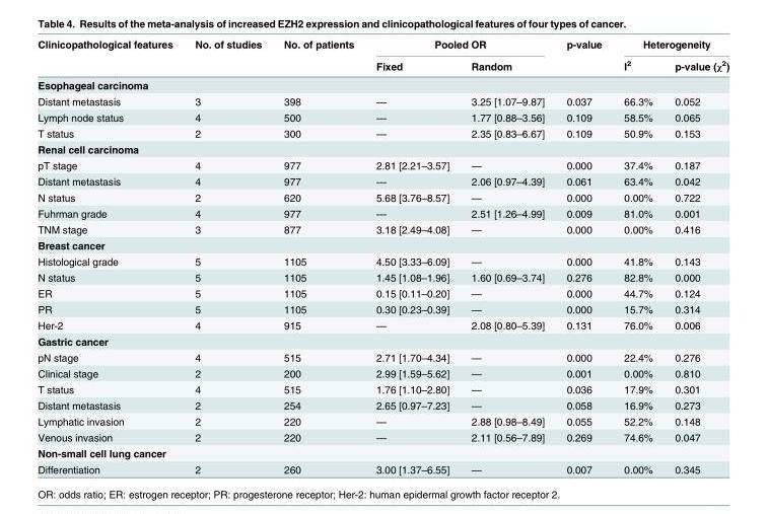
<table><thead><tr><td rowspan="2">Clinicopathological features</td><td rowspan="2">No. of studies</td><td rowspan="2">No. of patients</td><td colspan="2">Pooled OR</td><td rowspan="2">p-value</td><td colspan="2">Heterogeneity</td></tr><tr><td>Fixed</td><td>Random</td><td>I<sup>2</sup></td><td>p-value (χ<sup>2</sup>)</td></tr></thead><tbody><tr><td colspan="8">Esophageal carcinoma</td></tr><tr><td>Distant metastasis</td><td>3</td><td>398</td><td>—</td><td>3.25 [1.07–9.87]</td><td>0.037</td><td>66.3%</td><td>0.052</td></tr><tr><td>Lymph node status</td><td>4</td><td>500</td><td>—</td><td>1.77 [0.88–3.56]</td><td>0.109</td><td>58.5%</td><td>0.065</td></tr><tr><td>T status</td><td>2</td><td>300</td><td>—</td><td>2.35 [0.83–6.67]</td><td>0.109</td><td>50.9%</td><td>0.153</td></tr><tr><td colspan="8">Renal cell carcinoma</td></tr><tr><td>pT stage</td><td>4</td><td>977</td><td>2.81 [2.21–3.57]</td><td>—</td><td>0.000</td><td>37.4%</td><td>0.187</td></tr><tr><td>Distant metastasis</td><td>4</td><td>977</td><td>—</td><td>2.06 [0.97–4.39]</td><td>0.061</td><td>63.4%</td><td>0.042</td></tr><tr><td>N status</td><td>2</td><td>620</td><td>5.68 [3.76–8.57]</td><td>—</td><td>0.000</td><td>0.00%</td><td>0.722</td></tr><tr><td>Fuhrman grade</td><td>4</td><td>977</td><td>—</td><td>2.51 [1.26–4.99]</td><td>0.009</td><td>81.0%</td><td>0.001</td></tr><tr><td>TNM stage</td><td>3</td><td>877</td><td>3.18 [2.49–4.08]</td><td>—</td><td>0.000</td><td>0.00%</td><td>0.416</td></tr><tr><td colspan="8">Breast cancer</td></tr><tr><td>Histological grade</td><td>5</td><td>1105</td><td>4.50 [3.33–6.09]</td><td>—</td><td>0.000</td><td>41.8%</td><td>0.143</td></tr><tr><td>N status</td><td>5</td><td>1105</td><td>1.45 [1.08–1.96]</td><td>1.60 [0.69–3.74]</td><td>0.276</td><td>82.8%</td><td>0.000</td></tr><tr><td>ER</td><td>5</td><td>1105</td><td>0.15 [0.11–0.20]</td><td>—</td><td>0.000</td><td>44.7%</td><td>0.124</td></tr><tr><td>PR</td><td>5</td><td>1105</td><td>0.30 [0.23–0.39]</td><td>—</td><td>0.000</td><td>15.7%</td><td>0.314</td></tr><tr><td>Her-2</td><td>4</td><td>915</td><td>—</td><td>2.08 [0.80–5.39]</td><td>0.131</td><td>76.0%</td><td>0.006</td></tr><tr><td colspan="8">Gastric cancer</td></tr><tr><td>pN stage</td><td>4</td><td>515</td><td>2.71 [1.70–4.34]</td><td>—</td><td>0.000</td><td>22.4%</td><td>0.276</td></tr><tr><td>Clinical stage</td><td>2</td><td>200</td><td>2.99 [1.59–5.62]</td><td>—</td><td>0.001</td><td>0.00%</td><td>0.810</td></tr><tr><td>T status</td><td>4</td><td>515</td><td>1.76 [1.10–2.80]</td><td>—</td><td>0.036</td><td>17.9%</td><td>0.301</td></tr><tr><td>Distant metastasis</td><td>2</td><td>254</td><td>2.65 [0.97–7.23]</td><td>—</td><td>0.058</td><td>16.9%</td><td>0.273</td></tr><tr><td>Lymphatic invasion</td><td>2</td><td>220</td><td>—</td><td>2.88 [0.98–8.49]</td><td>0.055</td><td>52.2%</td><td>0.148</td></tr><tr><td>Venous invasion</td><td>2</td><td>220</td><td>—</td><td>2.11 [0.56–7.89]</td><td>0.269</td><td>74.6%</td><td>0.047</td></tr><tr><td colspan="8">Non-small cell lung cancer</td></tr><tr><td>Differentiation</td><td>2</td><td>260</td><td>3.00 [1.37–6.55]</td><td>—</td><td>0.007</td><td>0.00%</td><td>0.345</td></tr></tbody></table>